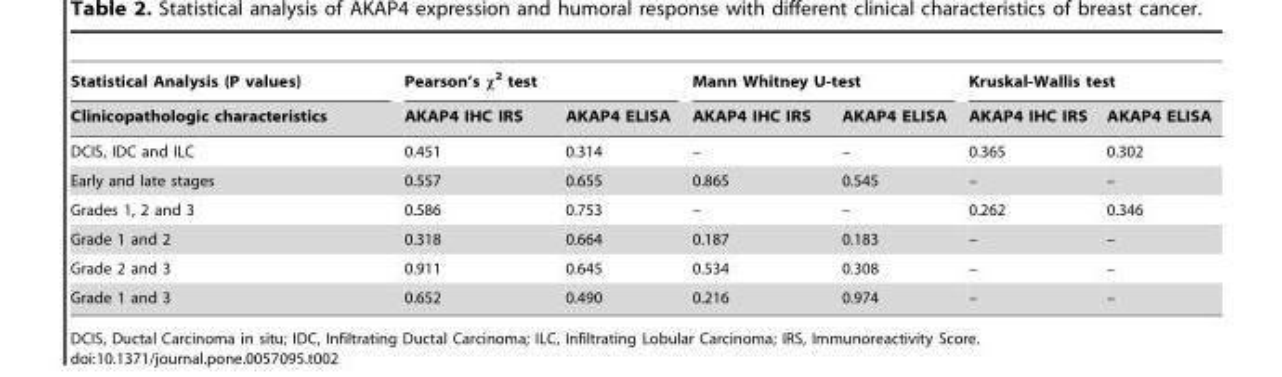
<table><thead><tr><td rowspan="2">Statistical Analysis (P values) Clinicopathologic characteristics</td><td colspan="2">Pearson’s χ<sup>2</sup> test</td><td colspan="2">Mann Whitney U-test</td><td colspan="2">Kruskal-Wallis test</td></tr><tr><td>AKAP4 IHC IRS</td><td>AKAP4 ELISA</td><td>AKAP4 IHC IRS</td><td>AKAP4 ELISA</td><td>AKAP4 IHC IRS</td><td>AKAP4 ELISA</td></tr></thead><tbody><tr><td>DCIS, IDC and ILC</td><td>0.451</td><td>0.314</td><td>–</td><td>–</td><td>0.365</td><td>0.302</td></tr><tr><td>Early and late stages</td><td>0.557</td><td>0.655</td><td>0.865</td><td>0.545</td><td>–</td><td>–</td></tr><tr><td>Grades 1, 2 and 3</td><td>0.586</td><td>0.753</td><td>–</td><td>–</td><td>0.262</td><td>0.346</td></tr><tr><td>Grade 1 and 2</td><td>0.318</td><td>0.664</td><td>0.187</td><td>0.183</td><td>–</td><td>–</td></tr><tr><td>Grade 2 and 3</td><td>0.911</td><td>0.645</td><td>0.534</td><td>0.308</td><td>–</td><td>–</td></tr><tr><td>Grade 1 and 3</td><td>0.652</td><td>0.490</td><td>0.216</td><td>0.974</td><td>–</td><td>–</td></tr></tbody></table>